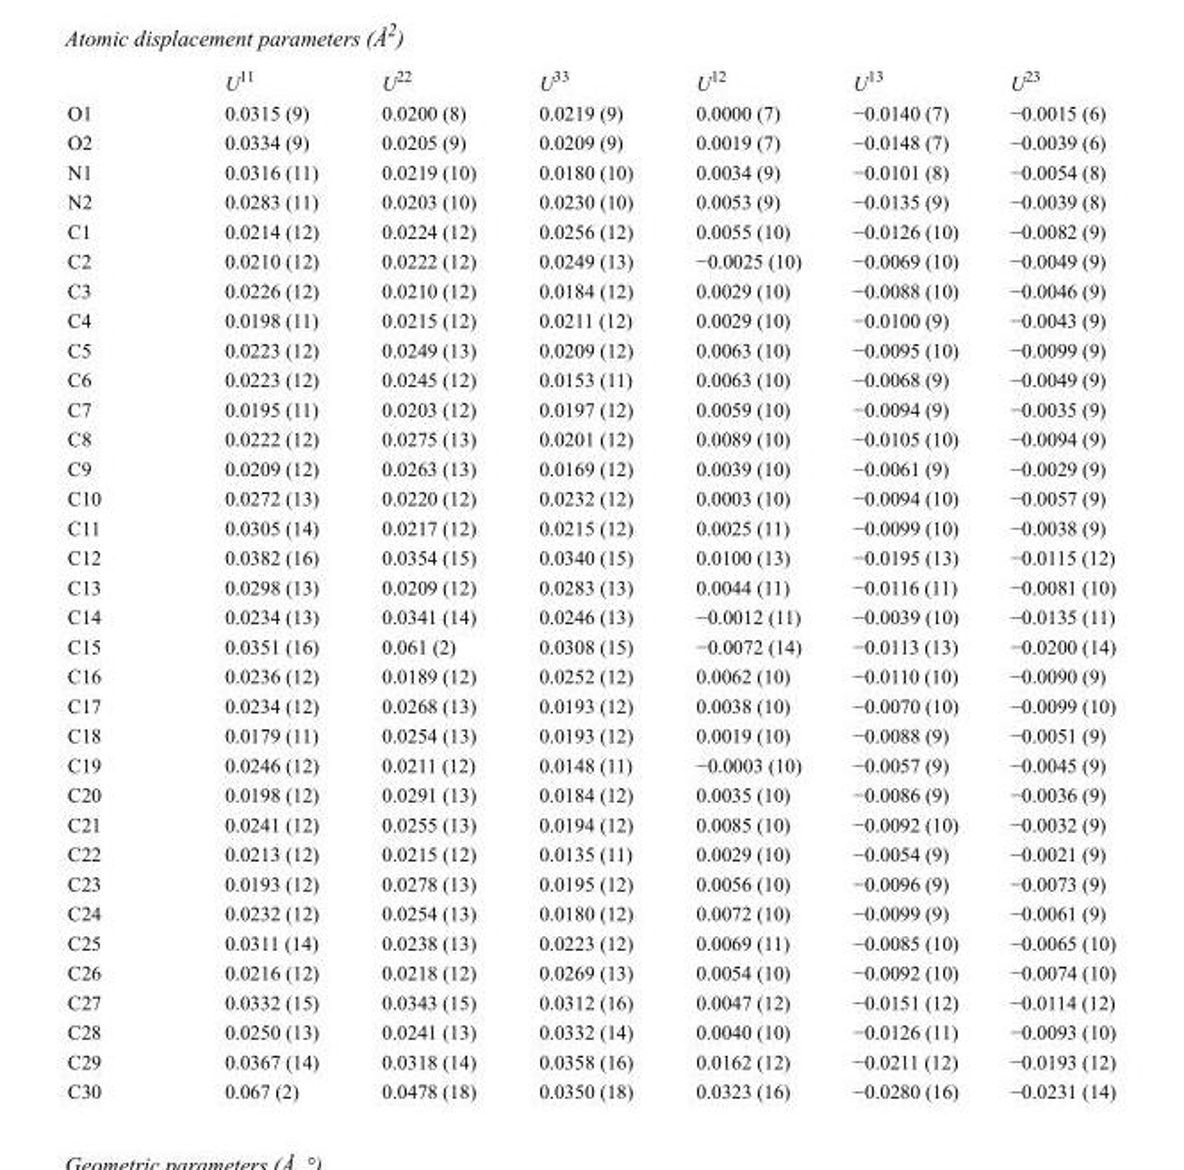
<table><thead><tr><td></td><td>U<sup>11</sup></td><td>U<sup>22</sup></td><td>U<sup>33</sup></td><td>U<sup>12</sup></td><td>U<sup>13</sup></td><td>U<sup>23</sup></td></tr></thead><tbody><tr><td>O1</td><td>0.0315 (9)</td><td>0.0200 (8)</td><td>0.0219 (9)</td><td>0.0000 (7)</td><td>−0.0140 (7)</td><td>−0.0015 (6)</td></tr><tr><td>O2</td><td>0.0334 (9)</td><td>0.0205 (9)</td><td>0.0209 (9)</td><td>0.0019 (7)</td><td>−0.0148 (7)</td><td>−0.0039 (6)</td></tr><tr><td>N1</td><td>0.0316 (11)</td><td>0.0219 (10)</td><td>0.0180 (10)</td><td>0.0034 (9)</td><td>−0.0101 (8)</td><td>−0.0054 (8)</td></tr><tr><td>N2</td><td>0.0283 (11)</td><td>0.0203 (10)</td><td>0.0230 (10)</td><td>0.0053 (9)</td><td>−0.0135 (9)</td><td>−0.0039 (8)</td></tr><tr><td>C1</td><td>0.0214 (12)</td><td>0.0224 (12)</td><td>0.0256 (12)</td><td>0.0055 (10)</td><td>−0.0126 (10)</td><td>−0.0082 (9)</td></tr><tr><td>C2</td><td>0.0210 (12)</td><td>0.0222 (12)</td><td>0.0249 (13)</td><td>−0.0025 (10)</td><td>−0.0069 (10)</td><td>−0.0049 (9)</td></tr><tr><td>C3</td><td>0.0226 (12)</td><td>0.0210 (12)</td><td>0.0184 (12)</td><td>0.0029 (10)</td><td>−0.0088 (10)</td><td>−0.0046 (9)</td></tr><tr><td>C4</td><td>0.0198 (11)</td><td>0.0215 (12)</td><td>0.0211 (12)</td><td>0.0029 (10)</td><td>−0.0100 (9)</td><td>−0.0043 (9)</td></tr><tr><td>C5</td><td>0.0223 (12)</td><td>0.0249 (13)</td><td>0.0209 (12)</td><td>0.0063 (10)</td><td>−0.0095 (10)</td><td>−0.0099 (9)</td></tr><tr><td>C6</td><td>0.0223 (12)</td><td>0.0245 (12)</td><td>0.0153 (11)</td><td>0.0063 (10)</td><td>−0.0068 (9)</td><td>−0.0049 (9)</td></tr><tr><td>C7</td><td>0.0195 (11)</td><td>0.0203 (12)</td><td>0.0197 (12)</td><td>0.0059 (10)</td><td>−0.0094 (9)</td><td>−0.0035 (9)</td></tr><tr><td>C8</td><td>0.0222 (12)</td><td>0.0275 (13)</td><td>0.0201 (12)</td><td>0.0089 (10)</td><td>−0.0105 (10)</td><td>−0.0094 (9)</td></tr><tr><td>C9</td><td>0.0209 (12)</td><td>0.0263 (13)</td><td>0.0169 (12)</td><td>0.0039 (10)</td><td>−0.0061 (9)</td><td>−0.0029 (9)</td></tr><tr><td>C10</td><td>0.0272 (13)</td><td>0.0220 (12)</td><td>0.0232 (12)</td><td>0.0003 (10)</td><td>−0.0094 (10)</td><td>−0.0057 (9)</td></tr><tr><td>C11</td><td>0.0305 (14)</td><td>0.0217 (12)</td><td>0.0215 (12)</td><td>0.0025 (11)</td><td>−0.0099 (10)</td><td>−0.0038 (9)</td></tr><tr><td>C12</td><td>0.0382 (16)</td><td>0.0354 (15)</td><td>0.0340 (15)</td><td>0.0100 (13)</td><td>−0.0195 (13)</td><td>−0.0115 (12)</td></tr><tr><td>C13</td><td>0.0298 (13)</td><td>0.0209 (12)</td><td>0.0283 (13)</td><td>0.0044 (11)</td><td>−0.0116 (11)</td><td>−0.0081 (10)</td></tr><tr><td>C14</td><td>0.0234 (13)</td><td>0.0341 (14)</td><td>0.0246 (13)</td><td>−0.0012 (11)</td><td>−0.0039 (10)</td><td>−0.0135 (11)</td></tr><tr><td>C15</td><td>0.0351 (16)</td><td>0.061 (2)</td><td>0.0308 (15)</td><td>−0.0072 (14)</td><td>−0.0113 (13)</td><td>−0.0200 (14)</td></tr><tr><td>C16</td><td>0.0236 (12)</td><td>0.0189 (12)</td><td>0.0252 (12)</td><td>0.0062 (10)</td><td>−0.0110 (10)</td><td>−0.0090 (9)</td></tr><tr><td>C17</td><td>0.0234 (12)</td><td>0.0268 (13)</td><td>0.0193 (12)</td><td>0.0038 (10)</td><td>−0.0070 (10)</td><td>−0.0099 (10)</td></tr><tr><td>C18</td><td>0.0179 (11)</td><td>0.0254 (13)</td><td>0.0193 (12)</td><td>0.0019 (10)</td><td>−0.0088 (9)</td><td>−0.0051 (9)</td></tr><tr><td>C19</td><td>0.0246 (12)</td><td>0.0211 (12)</td><td>0.0148 (11)</td><td>−0.0003 (10)</td><td>−0.0057 (9)</td><td>−0.0045 (9)</td></tr><tr><td>C20</td><td>0.0198 (12)</td><td>0.0291 (13)</td><td>0.0184 (12)</td><td>0.0035 (10)</td><td>−0.0086 (9)</td><td>−0.0036 (9)</td></tr><tr><td>C21</td><td>0.0241 (12)</td><td>0.0255 (13)</td><td>0.0194 (12)</td><td>0.0085 (10)</td><td>−0.0092 (10)</td><td>−0.0032 (9)</td></tr><tr><td>C22</td><td>0.0213 (12)</td><td>0.0215 (12)</td><td>0.0135 (11)</td><td>0.0029 (10)</td><td>−0.0054 (9)</td><td>−0.0021 (9)</td></tr><tr><td>C23</td><td>0.0193 (12)</td><td>0.0278 (13)</td><td>0.0195 (12)</td><td>0.0056 (10)</td><td>−0.0096 (9)</td><td>−0.0073 (9)</td></tr><tr><td>C24</td><td>0.0232 (12)</td><td>0.0254 (13)</td><td>0.0180 (12)</td><td>0.0072 (10)</td><td>−0.0099 (9)</td><td>−0.0061 (9)</td></tr><tr><td>C25</td><td>0.0311 (14)</td><td>0.0238 (13)</td><td>0.0223 (12)</td><td>0.0069 (11)</td><td>−0.0085 (10)</td><td>−0.0065 (10)</td></tr><tr><td>C26</td><td>0.0216 (12)</td><td>0.0218 (12)</td><td>0.0269 (13)</td><td>0.0054 (10)</td><td>−0.0092 (10)</td><td>−0.0074 (10)</td></tr><tr><td>C27</td><td>0.0332 (15)</td><td>0.0343 (15)</td><td>0.0312 (16)</td><td>0.0047 (12)</td><td>−0.0151 (12)</td><td>−0.0114 (12)</td></tr><tr><td>C28</td><td>0.0250 (13)</td><td>0.0241 (13)</td><td>0.0332 (14)</td><td>0.0040 (10)</td><td>−0.0126 (11)</td><td>−0.0093 (10)</td></tr><tr><td>C29</td><td>0.0367 (14)</td><td>0.0318 (14)</td><td>0.0358 (16)</td><td>0.0162 (12)</td><td>−0.0211 (12)</td><td>−0.0193 (12)</td></tr><tr><td>C30</td><td>0.067 (2)</td><td>0.0478 (18)</td><td>0.0350 (18)</td><td>0.0323 (16)</td><td>−0.0280 (16)</td><td>−0.0231 (14)</td></tr></tbody></table>